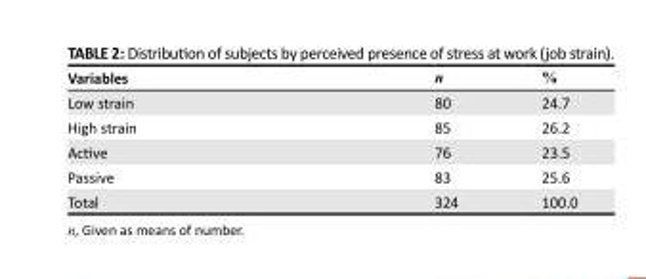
<table><thead><tr><td>Variables</td><td>n</td><td>%</td></tr></thead><tbody><tr><td>Low strain</td><td>80</td><td>24.7</td></tr><tr><td>High strain</td><td>85</td><td>26.2</td></tr><tr><td>Active</td><td>76</td><td>23.5</td></tr><tr><td>Passive</td><td>83</td><td>25.6</td></tr><tr><td>Total</td><td>324</td><td>100.0</td></tr></tbody></table>